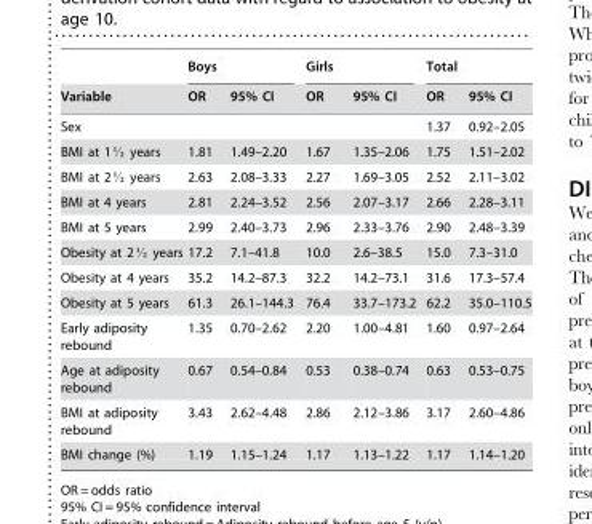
<table><thead><tr><td rowspan="2">Variable</td><td colspan="2">Boys</td><td colspan="2">Girls</td><td colspan="2">Total</td></tr><tr><td>OR</td><td>95% CI</td><td>OR</td><td>95% CI</td><td>OR</td><td>95% CI</td></tr></thead><tbody><tr><td>Sex</td><td></td><td></td><td></td><td></td><td>1.37</td><td>0.92–2.05</td></tr><tr><td>BMI at 1K years</td><td>1.81</td><td>1.49–2.20</td><td>1.67</td><td>1.35–2.06</td><td>1.75</td><td>1.51–2.02</td></tr><tr><td>BMI at 2K years</td><td>2.63</td><td>2.08–3.33</td><td>2.27</td><td>1.69–3.05</td><td>2.52</td><td>2.11–3.02</td></tr><tr><td>BMI at 4 years</td><td>2.81</td><td>2.24–3.52</td><td>2.56</td><td>2.07–3.17</td><td>2.66</td><td>2.28–3.11</td></tr><tr><td>BMI at 5 years</td><td>2.99</td><td>2.40–3.73</td><td>2.96</td><td>2.33–3.76</td><td>2.90</td><td>2.48–3.39</td></tr><tr><td>Obesity at 2K years</td><td>17.2</td><td>7.1–41.8</td><td>10.0</td><td>2.6–38.5</td><td>15.0</td><td>7.3–31.0</td></tr><tr><td>Obesity at 4 years</td><td>35.2</td><td>14.2–87.3</td><td>32.2</td><td>14.2–73.1</td><td>31.6</td><td>17.3–57.4</td></tr><tr><td>Obesity at 5 years</td><td>61.3</td><td>26.1–144.3</td><td>76.4</td><td>33.7–173.2</td><td>62.2</td><td>35.0–110.5</td></tr><tr><td>Early adiposity rebound</td><td>1.35</td><td>0.70–2.62</td><td>2.20</td><td>1.00–4.81</td><td>1.60</td><td>0.97–2.64</td></tr><tr><td>Age at adiposity rebound</td><td>0.67</td><td>0.54–0.84</td><td>0.53</td><td>0.38–0.74</td><td>0.63</td><td>0.53–0.75</td></tr><tr><td>BMI at adiposity rebound</td><td>3.43</td><td>2.62–4.48</td><td>2.86</td><td>2.12–3.86</td><td>3.17</td><td>2.60–4.86</td></tr><tr><td>BMI change (%)</td><td>1.19</td><td>1.15–1.24</td><td>1.17</td><td>1.13–1.22</td><td>1.17</td><td>1.14–1.20</td></tr></tbody></table>